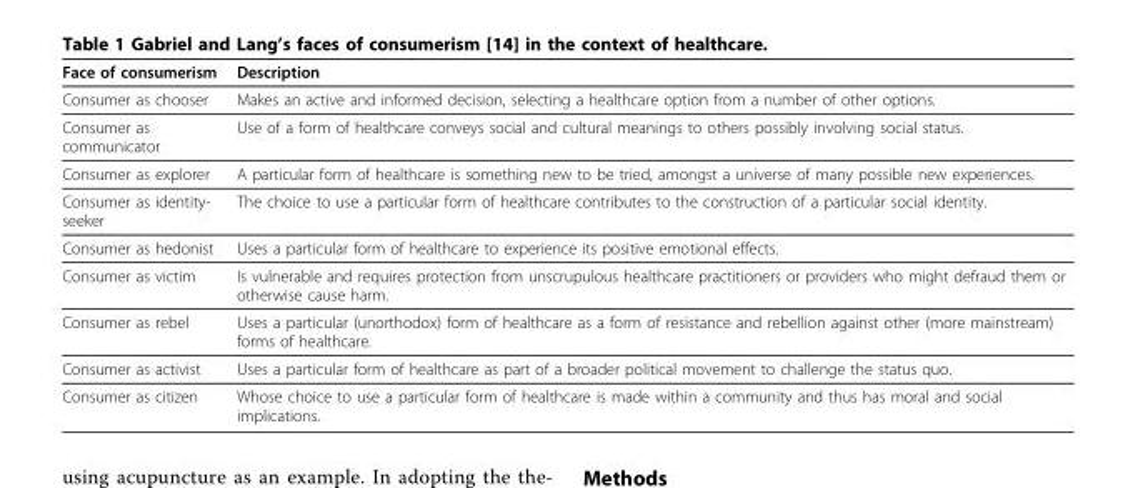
<table><thead><tr><td>Face of consumerism</td><td>Description</td></tr></thead><tbody><tr><td>Consumer as chooser</td><td>Makes an active and informed decision, selecting a healthcare option from a number of other options.</td></tr><tr><td>Consumer as communicator</td><td>Use of a form of healthcare conveys social and cultural meanings to others possibly involving social status.</td></tr><tr><td>Consumer as explorer</td><td>A particular form of healthcare is something new to be tried, amongst a universe of many possible new experiences.</td></tr><tr><td>Consumer as identity- seeker</td><td>The choice to use a particular form of healthcare contributes to the construction of a particular social identity.</td></tr><tr><td>Consumer as hedonist</td><td>Uses a particular form of healthcare to experience its positive emotional effects.</td></tr><tr><td>Consumer as victim</td><td>Is vulnerable and requires protection from unscrupulous healthcare practitioners or providers who might defraud them or otherwise cause harm.</td></tr><tr><td>Consumer as rebel</td><td>Uses a particular (unorthodox) form of healthcare as a form of resistance and rebellion against other (more mainstream) forms of healthcare.</td></tr><tr><td>Consumer as activist</td><td>Uses a particular form of healthcare as part of a broader political movement to challenge the status quo.</td></tr><tr><td>Consumer as citizen</td><td>Whose choice to use a particular form of healthcare is made within a community and thus has moral and social implications.</td></tr></tbody></table>